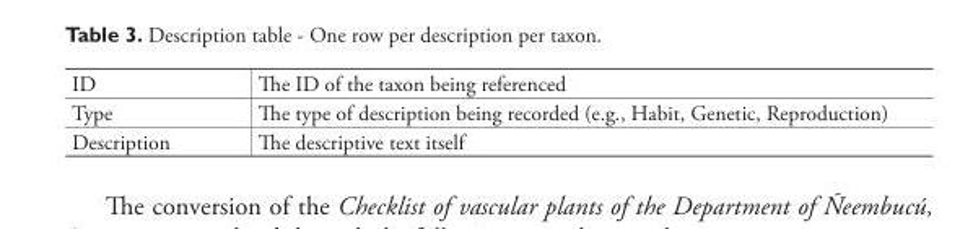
<table><tbody><tr><td>ID</td><td>Th e ID of the taxon being referenced</td></tr><tr><td>Type</td><td>Th e type of description being recorded (e.g., Habit, Genetic, Reproduction)</td></tr><tr><td>Description</td><td>Th e descriptive text itself</td></tr></tbody></table>